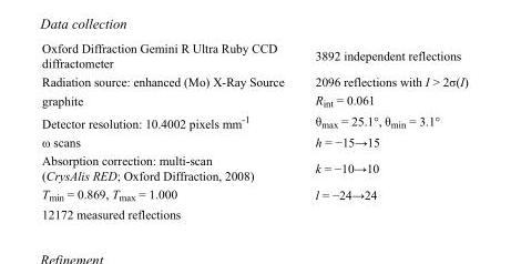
<table><tbody><tr><td>Oxford Diffraction Gemini R Ultra Ruby CCD diffractometer</td><td>3892 independent reflections</td></tr><tr><td>Radiation source: enhanced (Mo) X-Ray Source</td><td>2096 reflections with I &gt; 2σ(I)</td></tr><tr><td>graphite</td><td>R<sub>int</sub> = 0.061</td></tr><tr><td>Detector resolution: 10.4002 pixels mm<sup>-1</sup></td><td>θ<sub>max</sub> = 25.1°, θ<sub>min</sub> = 3.1°</td></tr><tr><td>ω scans</td><td>h = −15→15</td></tr><tr><td>Absorption correction: multi-scan (CrysAlis RED; Oxford Diffraction, 2008)</td><td>k = −10→10</td></tr><tr><td>T<sub>min</sub> = 0.869, T<sub>max</sub> = 1.000</td><td>l = −24→24</td></tr><tr><td>12172 measured reflections</td><td></td></tr></tbody></table>